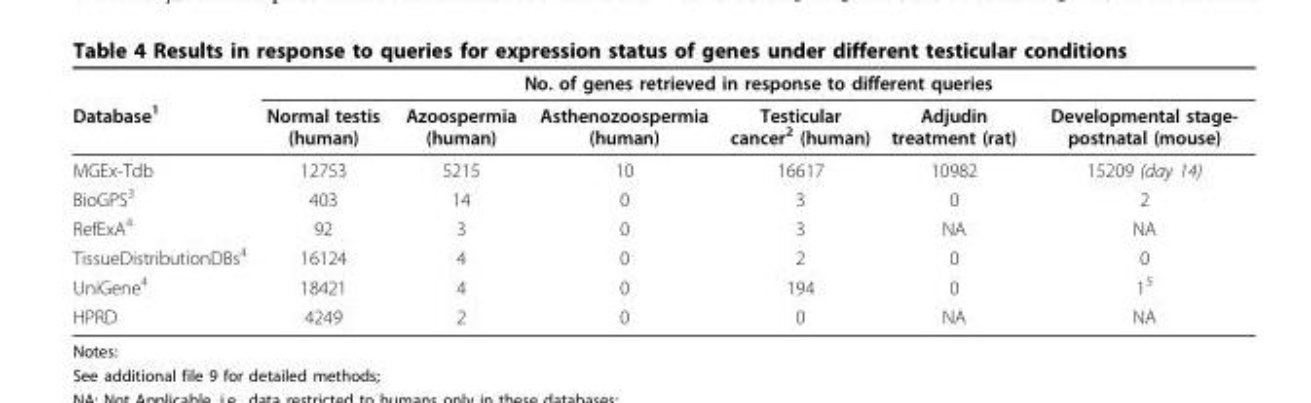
<table><thead><tr><td rowspan="2">Database<sup>1</sup></td><td colspan="6">No. of genes retrieved in response to different queries</td></tr><tr><td>Normal testis (human)</td><td>Azoospermia (human)</td><td>Asthenozoospermia (human)</td><td>Testicular cancer<sup>2</sup> (human)</td><td>Adjudin treatment (rat)</td><td>Developmental stage- postnatal (mouse)</td></tr></thead><tbody><tr><td>MGEx-Tdb</td><td>12753</td><td>5215</td><td>10</td><td>16617</td><td>10982</td><td>15209 (day 14)</td></tr><tr><td>BioGPS<sup>3</sup></td><td>403</td><td>14</td><td>0</td><td>3</td><td>0</td><td>2</td></tr><tr><td>RefExA<sup>4</sup></td><td>92</td><td>3</td><td>0</td><td>3</td><td>NA</td><td>NA</td></tr><tr><td>TissueDistributionDBs<sup>4</sup></td><td>16124</td><td>4</td><td>0</td><td>2</td><td>0</td><td>0</td></tr><tr><td>UniGene<sup>4</sup></td><td>18421</td><td>4</td><td>0</td><td>194</td><td>0</td><td>1<sup>5</sup></td></tr><tr><td>HPRD</td><td>4249</td><td>2</td><td>0</td><td>0</td><td>NA</td><td>NA</td></tr></tbody></table>